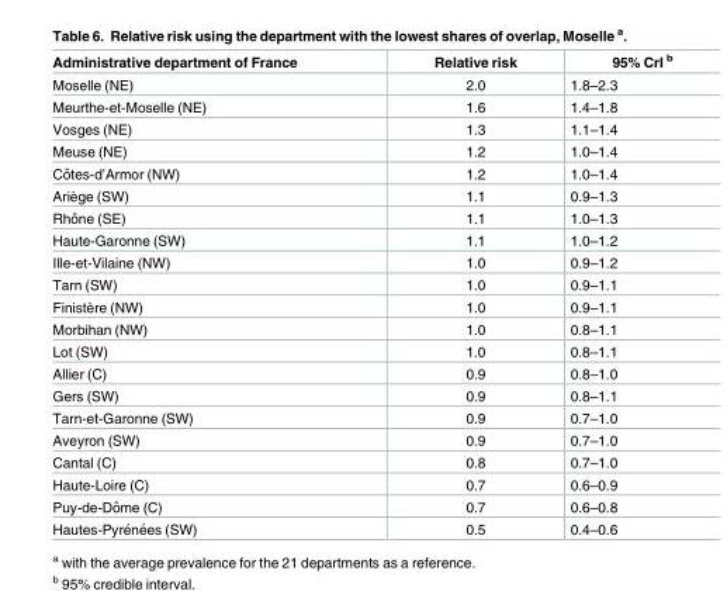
<table><thead><tr><td>Administrative department of France</td><td>Relative risk</td><td>95% CrI <sup>b</sup></td></tr></thead><tbody><tr><td>Moselle (NE)</td><td>2.0</td><td>1.8–2.3</td></tr><tr><td>Meurthe-et-Moselle (NE)</td><td>1.6</td><td>1.4–1.8</td></tr><tr><td>Vosges (NE)</td><td>1.3</td><td>1.1–1.4</td></tr><tr><td>Meuse (NE)</td><td>1.2</td><td>1.0–1.4</td></tr><tr><td>Coˆtes-d’Armor (NW)</td><td>1.2</td><td>1.0–1.4</td></tr><tr><td>Ariège (SW)</td><td>1.1</td><td>0.9–1.3</td></tr><tr><td>Rhoˆne (SE)</td><td>1.1</td><td>1.0–1.3</td></tr><tr><td>Haute-Garonne (SW)</td><td>1.1</td><td>1.0–1.2</td></tr><tr><td>Ille-et-Vilaine (NW)</td><td>1.0</td><td>0.9–1.2</td></tr><tr><td>Tarn (SW)</td><td>1.0</td><td>0.9–1.1</td></tr><tr><td>Finistère (NW)</td><td>1.0</td><td>0.9–1.1</td></tr><tr><td>Morbihan (NW)</td><td>1.0</td><td>0.8–1.1</td></tr><tr><td>Lot (SW)</td><td>1.0</td><td>0.8–1.1</td></tr><tr><td>Allier (C)</td><td>0.9</td><td>0.8–1.0</td></tr><tr><td>Gers (SW)</td><td>0.9</td><td>0.8–1.1</td></tr><tr><td>Tarn-et-Garonne (SW)</td><td>0.9</td><td>0.7–1.0</td></tr><tr><td>Aveyron (SW)</td><td>0.9</td><td>0.7–1.0</td></tr><tr><td>Cantal (C)</td><td>0.8</td><td>0.7–1.0</td></tr><tr><td>Haute-Loire (C)</td><td>0.7</td><td>0.6–0.9</td></tr><tr><td>Puy-de-Doˆme (C)</td><td>0.7</td><td>0.6–0.8</td></tr><tr><td>Hautes-Pyre´ne´es (SW)</td><td>0.5</td><td>0.4–0.6</td></tr></tbody></table>